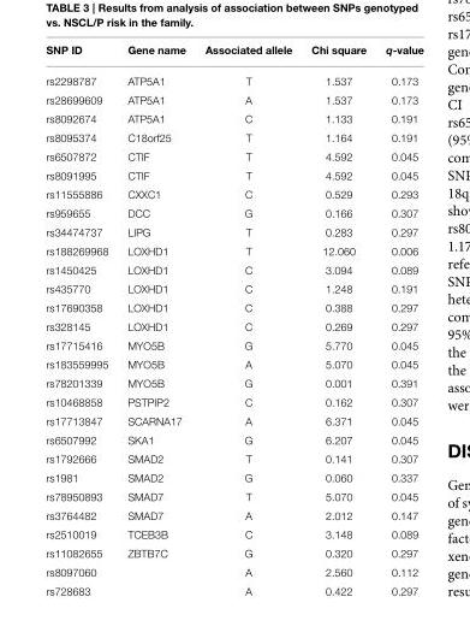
<table><thead><tr><td>SNP ID</td><td>Gene name</td><td>Associated allele</td><td>Chi square</td><td>q-value</td></tr></thead><tbody><tr><td>rs2298787</td><td>ATP5A1</td><td>T</td><td>1.537</td><td>0.173</td></tr><tr><td>rs28699609</td><td>ATP5A1</td><td>A</td><td>1.537</td><td>0.173</td></tr><tr><td>rs8092674</td><td>ATP5A1</td><td>C</td><td>1.133</td><td>0.191</td></tr><tr><td>rs8095374</td><td>C18orf25</td><td>T</td><td>1.164</td><td>0.191</td></tr><tr><td>rs6507872</td><td>CTIF</td><td>T</td><td>4.592</td><td>0.045</td></tr><tr><td>rs8091995</td><td>CTIF</td><td>T</td><td>4.592</td><td>0.045</td></tr><tr><td>rs11555886</td><td>CXXC1</td><td>C</td><td>0.529</td><td>0.293</td></tr><tr><td>rs959655</td><td>DCC</td><td>G</td><td>0.166</td><td>0.307</td></tr><tr><td>rs34474737</td><td>LIPG</td><td>T</td><td>0.283</td><td>0.297</td></tr><tr><td>rs188269968</td><td>LOXHD1</td><td>T</td><td>12.060</td><td>0.006</td></tr><tr><td>rs1450425</td><td>LOXHD1</td><td>C</td><td>3.094</td><td>0.089</td></tr><tr><td>rs435770</td><td>LOXHD1</td><td>C</td><td>1.248</td><td>0.191</td></tr><tr><td>rs17690358</td><td>LOXHD1</td><td>C</td><td>0.388</td><td>0.297</td></tr><tr><td>rs328145</td><td>LOXHD1</td><td>C</td><td>0.269</td><td>0.297</td></tr><tr><td>rs17715416</td><td>MYO5B</td><td>G</td><td>5.770</td><td>0.045</td></tr><tr><td>rs183559995</td><td>MYO5B</td><td>A</td><td>5.070</td><td>0.045</td></tr><tr><td>rs78201339</td><td>MYO5B</td><td>G</td><td>0.001</td><td>0.391</td></tr><tr><td>rs10468858</td><td>PSTPIP2</td><td>C</td><td>0.162</td><td>0.307</td></tr><tr><td>rs17713847</td><td>SCARNA17</td><td>A</td><td>6.371</td><td>0.045</td></tr><tr><td>rs6507992</td><td>SKA1</td><td>G</td><td>6.207</td><td>0.045</td></tr><tr><td>rs1792666</td><td>SMAD2</td><td>T</td><td>0.141</td><td>0.307</td></tr><tr><td>rs1981</td><td>SMAD2</td><td>G</td><td>0.060</td><td>0.337</td></tr><tr><td>rs78950893</td><td>SMAD7</td><td>T</td><td>5.070</td><td>0.045</td></tr><tr><td>rs3764482</td><td>SMAD7</td><td>A</td><td>2.012</td><td>0.147</td></tr><tr><td>rs2510019</td><td>TCEB3B</td><td>C</td><td>3.148</td><td>0.089</td></tr><tr><td>rs11082655</td><td>ZBTB7C</td><td>G</td><td>0.320</td><td>0.297</td></tr><tr><td>rs8097060</td><td></td><td>A</td><td>2.560</td><td>0.112</td></tr><tr><td>rs728683</td><td></td><td>A</td><td>0.422</td><td>0.297</td></tr></tbody></table>